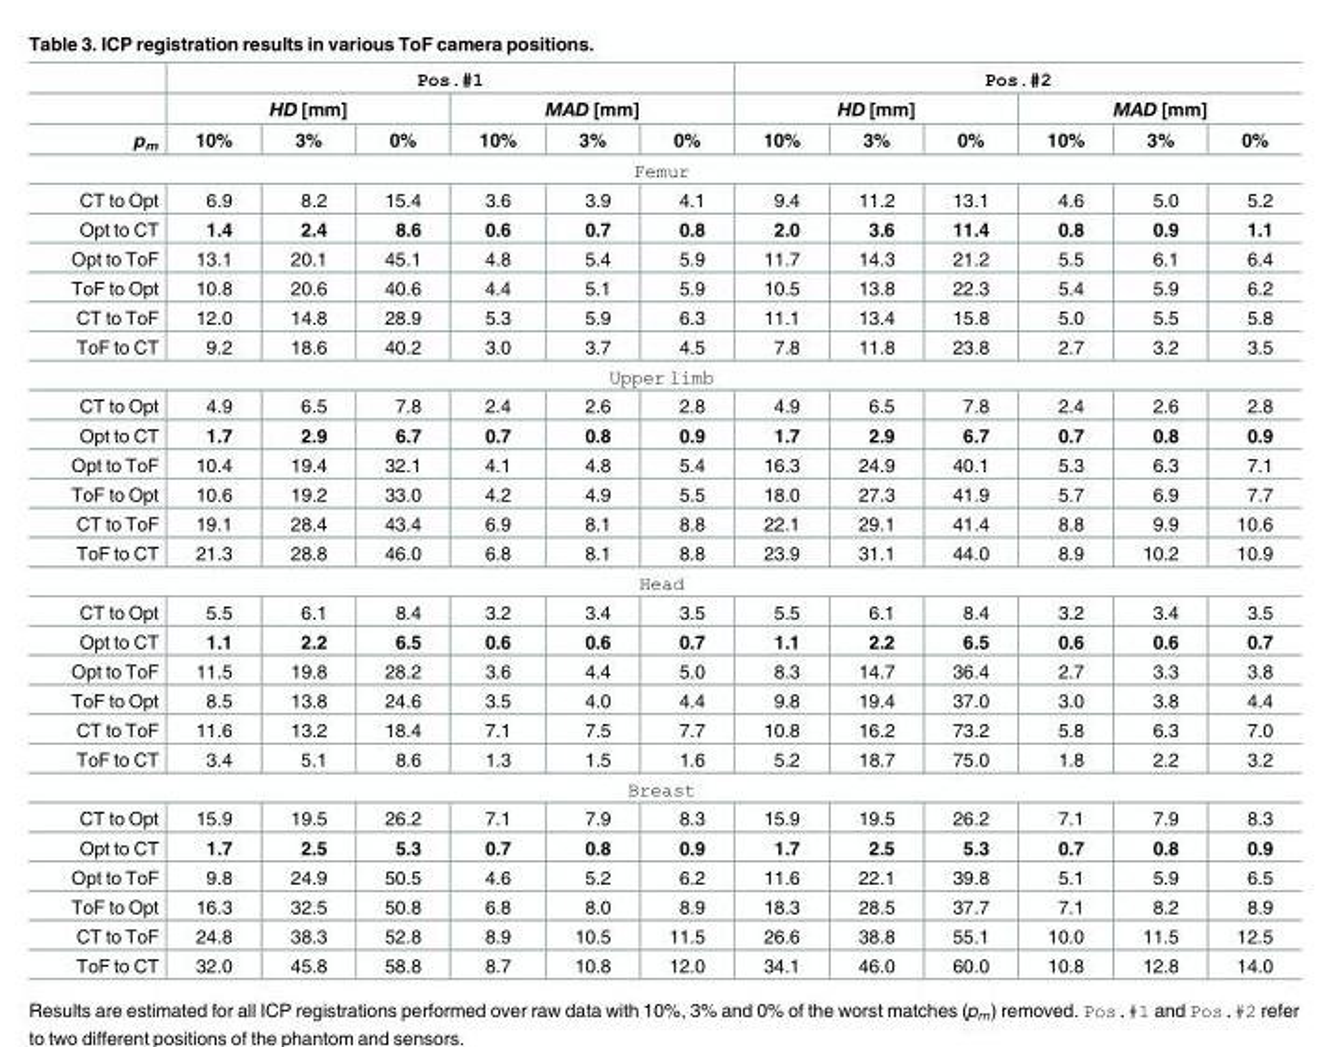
<table><thead><tr><td rowspan="3">p<sub>m</sub></td><td colspan="6">Pos.#1</td><td colspan="6">Pos.#2</td></tr><tr><td colspan="3">HD [mm]</td><td colspan="3">MAD [mm]</td><td colspan="3">HD [mm]</td><td colspan="3">MAD [mm]</td></tr><tr><td>10%</td><td>3%</td><td>0%</td><td>10%</td><td>3%</td><td>0%</td><td>10%</td><td>3%</td><td>0%</td><td>10%</td><td>3%</td><td>0%</td></tr></thead><tbody><tr><td colspan="13">Femur</td></tr><tr><td>CT to Opt</td><td>6.9</td><td>8.2</td><td>15.4</td><td>3.6</td><td>3.9</td><td>4.1</td><td>9.4</td><td>11.2</td><td>13.1</td><td>4.6</td><td>5.0</td><td>5.2</td></tr><tr><td>Opt to CT</td><td>1.4</td><td>2.4</td><td>8.6</td><td>0.6</td><td>0.7</td><td>0.8</td><td>2.0</td><td>3.6</td><td>11.4</td><td>0.8</td><td>0.9</td><td>1.1</td></tr><tr><td>Opt to ToF</td><td>13.1</td><td>20.1</td><td>45.1</td><td>4.8</td><td>5.4</td><td>5.9</td><td>11.7</td><td>14.3</td><td>21.2</td><td>5.5</td><td>6.1</td><td>6.4</td></tr><tr><td>ToF to Opt</td><td>10.8</td><td>20.6</td><td>40.6</td><td>4.4</td><td>5.1</td><td>5.9</td><td>10.5</td><td>13.8</td><td>22.3</td><td>5.4</td><td>5.9</td><td>6.2</td></tr><tr><td>CT to ToF</td><td>12.0</td><td>14.8</td><td>28.9</td><td>5.3</td><td>5.9</td><td>6.3</td><td>11.1</td><td>13.4</td><td>15.8</td><td>5.0</td><td>5.5</td><td>5.8</td></tr><tr><td>ToF to CT</td><td>9.2</td><td>18.6</td><td>40.2</td><td>3.0</td><td>3.7</td><td>4.5</td><td>7.8</td><td>11.8</td><td>23.8</td><td>2.7</td><td>3.2</td><td>3.5</td></tr><tr><td colspan="13">Upper limb</td></tr><tr><td>CT to Opt</td><td>4.9</td><td>6.5</td><td>7.8</td><td>2.4</td><td>2.6</td><td>2.8</td><td>4.9</td><td>6.5</td><td>7.8</td><td>2.4</td><td>2.6</td><td>2.8</td></tr><tr><td>Opt to CT</td><td>1.7</td><td>2.9</td><td>6.7</td><td>0.7</td><td>0.8</td><td>0.9</td><td>1.7</td><td>2.9</td><td>6.7</td><td>0.7</td><td>0.8</td><td>0.9</td></tr><tr><td>Opt to ToF</td><td>10.4</td><td>19.4</td><td>32.1</td><td>4.1</td><td>4.8</td><td>5.4</td><td>16.3</td><td>24.9</td><td>40.1</td><td>5.3</td><td>6.3</td><td>7.1</td></tr><tr><td>ToF to Opt</td><td>10.6</td><td>19.2</td><td>33.0</td><td>4.2</td><td>4.9</td><td>5.5</td><td>18.0</td><td>27.3</td><td>41.9</td><td>5.7</td><td>6.9</td><td>7.7</td></tr><tr><td>CT to ToF</td><td>19.1</td><td>28.4</td><td>43.4</td><td>6.9</td><td>8.1</td><td>8.8</td><td>22.1</td><td>29.1</td><td>41.4</td><td>8.8</td><td>9.9</td><td>10.6</td></tr><tr><td>ToF to CT</td><td>21.3</td><td>28.8</td><td>46.0</td><td>6.8</td><td>8.1</td><td>8.8</td><td>23.9</td><td>31.1</td><td>44.0</td><td>8.9</td><td>10.2</td><td>10.9</td></tr><tr><td colspan="13">Head</td></tr><tr><td>CT to Opt</td><td>5.5</td><td>6.1</td><td>8.4</td><td>3.2</td><td>3.4</td><td>3.5</td><td>5.5</td><td>6.1</td><td>8.4</td><td>3.2</td><td>3.4</td><td>3.5</td></tr><tr><td>Opt to CT</td><td>1.1</td><td>2.2</td><td>6.5</td><td>0.6</td><td>0.6</td><td>0.7</td><td>1.1</td><td>2.2</td><td>6.5</td><td>0.6</td><td>0.6</td><td>0.7</td></tr><tr><td>Opt to ToF</td><td>11.5</td><td>19.8</td><td>28.2</td><td>3.6</td><td>4.4</td><td>5.0</td><td>8.3</td><td>14.7</td><td>36.4</td><td>2.7</td><td>3.3</td><td>3.8</td></tr><tr><td>ToF to Opt</td><td>8.5</td><td>13.8</td><td>24.6</td><td>3.5</td><td>4.0</td><td>4.4</td><td>9.8</td><td>19.4</td><td>37.0</td><td>3.0</td><td>3.8</td><td>4.4</td></tr><tr><td>CT to ToF</td><td>11.6</td><td>13.2</td><td>18.4</td><td>7.1</td><td>7.5</td><td>7.7</td><td>10.8</td><td>16.2</td><td>73.2</td><td>5.8</td><td>6.3</td><td>7.0</td></tr><tr><td>ToF to CT</td><td>3.4</td><td>5.1</td><td>8.6</td><td>1.3</td><td>1.5</td><td>1.6</td><td>5.2</td><td>18.7</td><td>75.0</td><td>1.8</td><td>2.2</td><td>3.2</td></tr><tr><td colspan="13">Breast</td></tr><tr><td>CT to Opt</td><td>15.9</td><td>19.5</td><td>26.2</td><td>7.1</td><td>7.9</td><td>8.3</td><td>15.9</td><td>19.5</td><td>26.2</td><td>7.1</td><td>7.9</td><td>8.3</td></tr><tr><td>Opt to CT</td><td>1.7</td><td>2.5</td><td>5.3</td><td>0.7</td><td>0.8</td><td>0.9</td><td>1.7</td><td>2.5</td><td>5.3</td><td>0.7</td><td>0.8</td><td>0.9</td></tr><tr><td>Opt to ToF</td><td>9.8</td><td>24.9</td><td>50.5</td><td>4.6</td><td>5.2</td><td>6.2</td><td>11.6</td><td>22.1</td><td>39.8</td><td>5.1</td><td>5.9</td><td>6.5</td></tr><tr><td>ToF to Opt</td><td>16.3</td><td>32.5</td><td>50.8</td><td>6.8</td><td>8.0</td><td>8.9</td><td>18.3</td><td>28.5</td><td>37.7</td><td>7.1</td><td>8.2</td><td>8.9</td></tr><tr><td>CT to ToF</td><td>24.8</td><td>38.3</td><td>52.8</td><td>8.9</td><td>10.5</td><td>11.5</td><td>26.6</td><td>38.8</td><td>55.1</td><td>10.0</td><td>11.5</td><td>12.5</td></tr><tr><td>ToF to CT</td><td>32.0</td><td>45.8</td><td>58.8</td><td>8.7</td><td>10.8</td><td>12.0</td><td>34.1</td><td>46.0</td><td>60.0</td><td>10.8</td><td>12.8</td><td>14.0</td></tr></tbody></table>